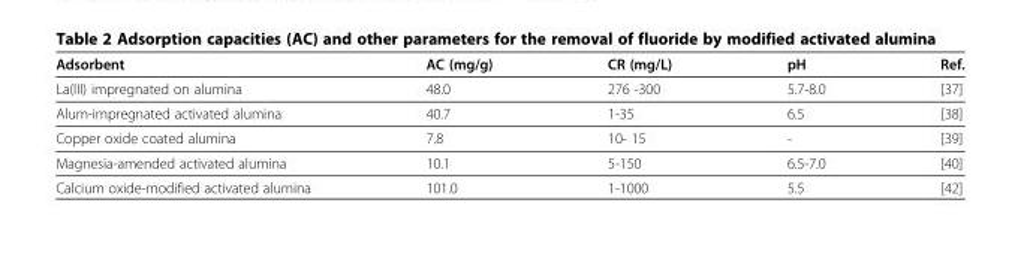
<table><thead><tr><td>Adsorbent</td><td>AC (mg/g)</td><td>CR (mg/L)</td><td>pH</td><td>Ref.</td></tr></thead><tbody><tr><td>La(III) impregnated on alumina</td><td>48.0</td><td>276 -300</td><td>5.7-8.0</td><td>[37]</td></tr><tr><td>Alum-impregnated activated alumina</td><td>40.7</td><td>1-35</td><td>6.5</td><td>[38]</td></tr><tr><td>Copper oxide coated alumina</td><td>7.8</td><td>10- 15</td><td>-</td><td>[39]</td></tr><tr><td>Magnesia-amended activated alumina</td><td>10.1</td><td>5-150</td><td>6.5-7.0</td><td>[40]</td></tr><tr><td>Calcium oxide-modified activated alumina</td><td>101.0</td><td>1-1000</td><td>5.5</td><td>[42]</td></tr></tbody></table>